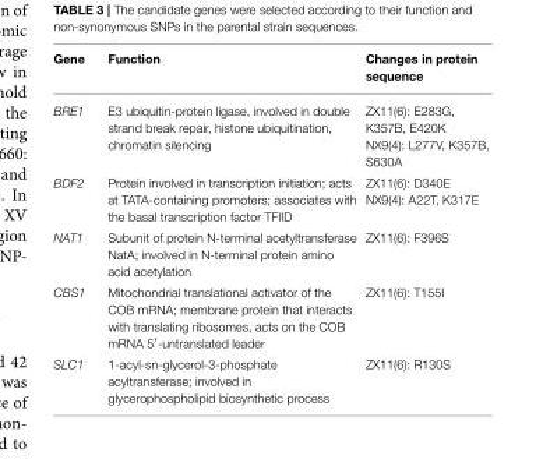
<table><thead><tr><td>Gene</td><td>Function</td><td>Changes in protein sequence</td></tr></thead><tbody><tr><td>BRE1</td><td>E3 ubiquitin-protein ligase, involved in double strand break repair, histone ubiquitination, chromatin silencing</td><td>ZX11(6): E283G, K357B, E420K NX9(4): L277V, K357B, S630A</td></tr><tr><td>BDF2</td><td>Protein involved in transcription initiation; acts at TATA-containing promoters; associates with the basal transcription factor TFIID</td><td>ZX11(6): D340E NX9(4): A22T, K317E</td></tr><tr><td>NAT1</td><td>Subunit of protein N-terminal acetyltransferase NatA; involved in N-terminal protein amino acid acetylation</td><td>ZX11(6): F396S</td></tr><tr><td>CBS1</td><td>Mitochondrial translational activator of the COB mRNA; membrane protein that interacts with translating ribosomes, acts on the COB mRNA 5′-untranslated leader</td><td>ZX11(6): T155I</td></tr><tr><td>SLC1</td><td>1-acyl-sn-glycerol-3-phosphate acyltransferase; involved in glycerophospholipid biosynthetic process</td><td>ZX11(6): R130S</td></tr></tbody></table>